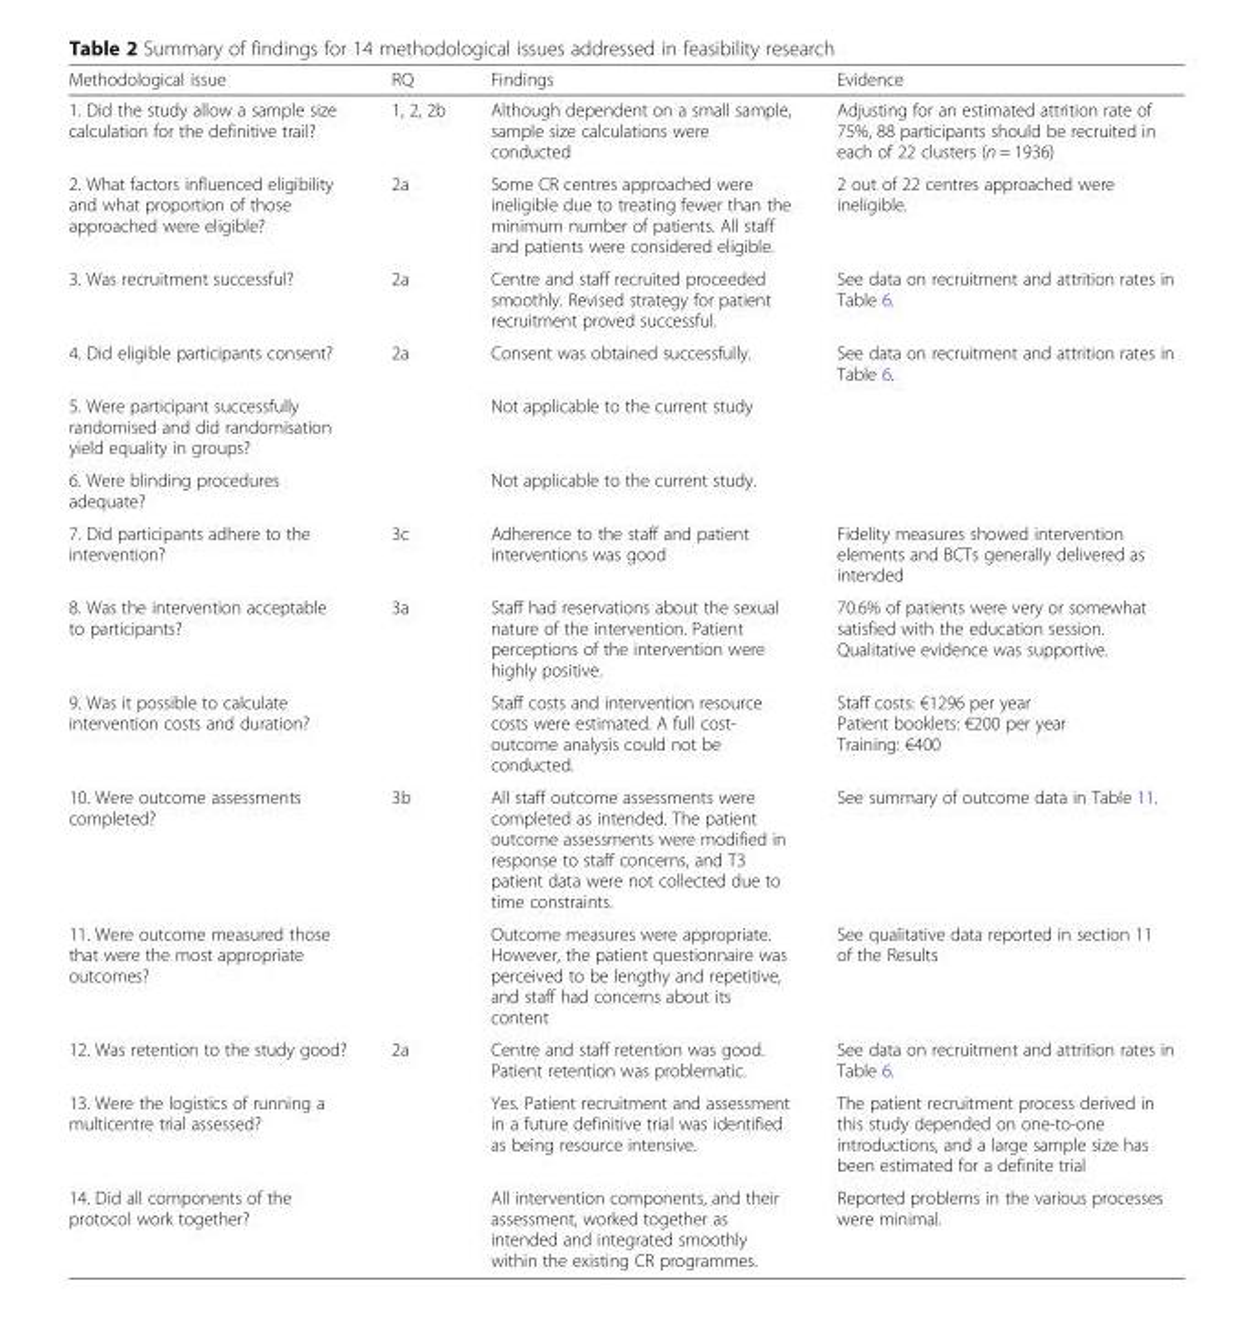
<table><thead><tr><td>Methodological issue</td><td>RQ</td><td>Findings</td><td>Evidence</td></tr></thead><tbody><tr><td>1. Did the study allow a sample size calculation for the definitive trail?</td><td>1, 2, 2b</td><td>Although dependent on a small sample, sample size calculations were conducted</td><td>Adjusting for an estimated attrition rate of 75%, 88 participants should be recruited in each of 22 clusters (n = 1936)</td></tr><tr><td>2. What factors influenced eligibility and what proportion of those approached were eligible?</td><td>2a</td><td>Some CR centres approached were ineligible due to treating fewer than the minimum number of patients. All staff and patients were considered eligible.</td><td>2 out of 22 centres approached were ineligible.</td></tr><tr><td>3. Was recruitment successful?</td><td>2a</td><td>Centre and staff recruited proceeded smoothly. Revised strategy for patient recruitment proved successful.</td><td>See data on recruitment and attrition rates in Table 6.</td></tr><tr><td>4. Did eligible participants consent?</td><td>2a</td><td>Consent was obtained successfully.</td><td>See data on recruitment and attrition rates in Table 6.</td></tr><tr><td>5. Were participant successfully randomised and did randomisation yield equality in groups?</td><td></td><td>Not applicable to the current study</td><td></td></tr><tr><td>6. Were blinding procedures adequate?</td><td></td><td>Not applicable to the current study.</td><td></td></tr><tr><td>7. Did participants adhere to the intervention?</td><td>3c</td><td>Adherence to the staff and patient interventions was good</td><td>Fidelity measures showed intervention elements and BCTs generally delivered as intended</td></tr><tr><td>8. Was the intervention acceptable to participants?</td><td>3a</td><td>Staff had reservations about the sexual nature of the intervention. Patient perceptions of the intervention were highly positive.</td><td>70.6% of patients were very or somewhat satisfied with the education session. Qualitative evidence was supportive.</td></tr><tr><td>9. Was it possible to calculate intervention costs and duration?</td><td></td><td>Staff costs and intervention resource costs were estimated. A full cost- outcome analysis could not be conducted.</td><td>Staff costs: €1296 per year Patient booklets: €200 per year Training: €400</td></tr><tr><td>10. Were outcome assessments completed?</td><td>3b</td><td>All staff outcome assessments were completed as intended. The patient outcome assessments were modified in response to staff concerns, and T3 patient data were not collected due to time constraints.</td><td>See summary of outcome data in Table 11.</td></tr><tr><td>11. Were outcome measured those that were the most appropriate outcomes?</td><td></td><td>Outcome measures were appropriate. However, the patient questionnaire was perceived to be lengthy and repetitive, and staff had concerns about its content</td><td>See qualitative data reported in section 11 of the Results</td></tr><tr><td>12. Was retention to the study good?</td><td>2a</td><td>Centre and staff retention was good. Patient retention was problematic.</td><td>See data on recruitment and attrition rates in Table 6.</td></tr><tr><td>13. Were the logistics of running a multicentre trial assessed?</td><td></td><td>Yes. Patient recruitment and assessment in a future definitive trial was identified as being resource intensive.</td><td>The patient recruitment process derived in this study depended on one-to-one introductions, and a large sample size has been estimated for a definite trial</td></tr><tr><td>14. Did all components of the protocol work together?</td><td></td><td>All intervention components, and their assessment, worked together as intended and integrated smoothly within the existing CR programmes.</td><td>Reported problems in the various processes were minimal.</td></tr></tbody></table>